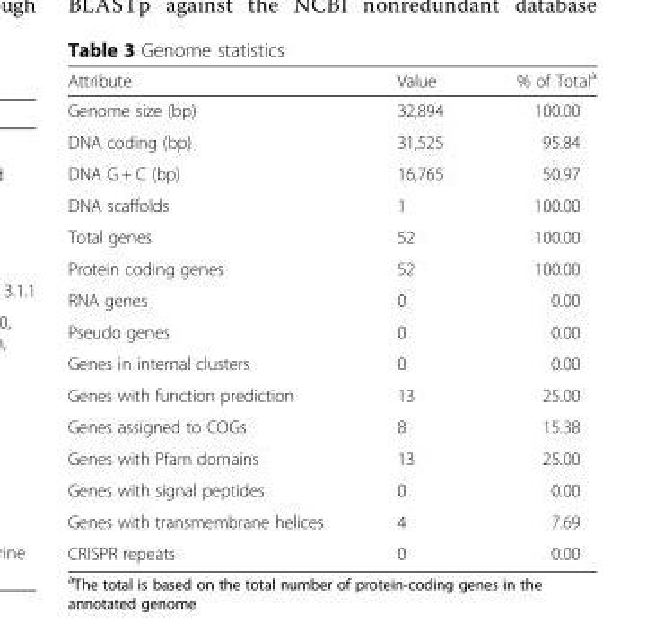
<table><thead><tr><td>Attribute</td><td>Value</td><td>% of Total<sup>a</sup></td></tr></thead><tbody><tr><td>Genome size (bp)</td><td>32,894</td><td>100.00</td></tr><tr><td>DNA coding (bp)</td><td>31,525</td><td>95.84</td></tr><tr><td>DNA G + C (bp)</td><td>16,765</td><td>50.97</td></tr><tr><td>DNA scaffolds</td><td>1</td><td>100.00</td></tr><tr><td>Total genes</td><td>52</td><td>100.00</td></tr><tr><td>Protein coding genes</td><td>52</td><td>100.00</td></tr><tr><td>RNA genes</td><td>0</td><td>0.00</td></tr><tr><td>Pseudo genes</td><td>0</td><td>0.00</td></tr><tr><td>Genes in internal clusters</td><td>0</td><td>0.00</td></tr><tr><td>Genes with function prediction</td><td>13</td><td>25.00</td></tr><tr><td>Genes assigned to COGs</td><td>8</td><td>15.38</td></tr><tr><td>Genes with Pfam domains</td><td>13</td><td>25.00</td></tr><tr><td>Genes with signal peptides</td><td>0</td><td>0.00</td></tr><tr><td>Genes with transmembrane helices</td><td>4</td><td>7.69</td></tr><tr><td>CRISPR repeats</td><td>0</td><td>0.00</td></tr></tbody></table>